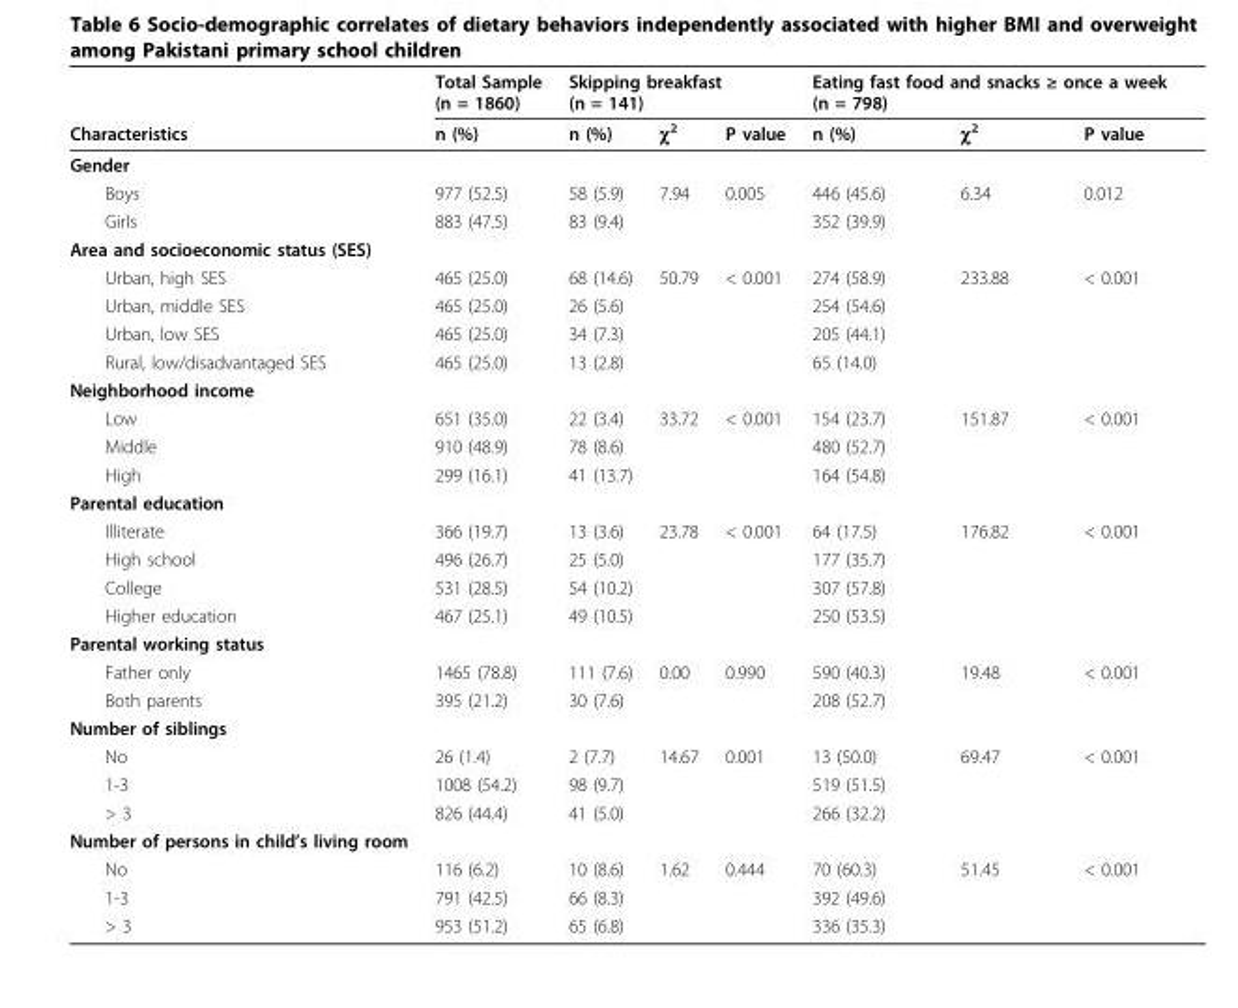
<table><thead><tr><td rowspan="2">Characteristics</td><td rowspan="2">Total Sample (n = 1860) n (%)</td><td colspan="3">Skipping breakfast (n = 141)</td><td colspan="3">Eating fast food and snacks ≥ once a week (n = 798)</td></tr><tr><td>n (%)</td><td>χ<sup>2</sup></td><td>P value</td><td>n (%)</td><td>χ<sup>2</sup></td><td>P value</td></tr></thead><tbody><tr><td colspan="8">Gender</td></tr><tr><td>Boys</td><td>977 (52.5)</td><td>58 (5.9)</td><td>7.94</td><td>0.005</td><td>446 (45.6)</td><td>6.34</td><td>0.012</td></tr><tr><td>Girls</td><td>883 (47.5)</td><td>83 (9.4)</td><td></td><td></td><td>352 (39.9)</td><td></td><td></td></tr><tr><td colspan="8">Area and socioeconomic status (SES)</td></tr><tr><td>Urban, high SES</td><td>465 (25.0)</td><td>68 (14.6)</td><td>50.79</td><td>&lt; 0.001</td><td>274 (58.9)</td><td>233.88</td><td>&lt; 0.001</td></tr><tr><td>Urban, middle SES</td><td>465 (25.0)</td><td>26 (5.6)</td><td></td><td></td><td>254 (54.6)</td><td></td><td></td></tr><tr><td>Urban, low SES</td><td>465 (25.0)</td><td>34 (7.3)</td><td></td><td></td><td>205 (44.1)</td><td></td><td></td></tr><tr><td>Rural, low/disadvantaged SES</td><td>465 (25.0)</td><td>13 (2.8)</td><td></td><td></td><td>65 (14.0)</td><td></td><td></td></tr><tr><td colspan="8">Neighborhood income</td></tr><tr><td>Low</td><td>651 (35.0)</td><td>22 (3.4)</td><td>33.72</td><td>&lt; 0.001</td><td>154 (23.7)</td><td>151.87</td><td>&lt; 0.001</td></tr><tr><td>Middle</td><td>910 (48.9)</td><td>78 (8.6)</td><td></td><td></td><td>480 (52.7)</td><td></td><td></td></tr><tr><td>High</td><td>299 (16.1)</td><td>41 (13.7)</td><td></td><td></td><td>164 (54.8)</td><td></td><td></td></tr><tr><td colspan="8">Parental education</td></tr><tr><td>Illiterate</td><td>366 (19.7)</td><td>13 (3.6)</td><td>23.78</td><td>&lt; 0.001</td><td>64 (17.5)</td><td>176.82</td><td>&lt; 0.001</td></tr><tr><td>High school</td><td>496 (26.7)</td><td>25 (5.0)</td><td></td><td></td><td>177 (35.7)</td><td></td><td></td></tr><tr><td>College</td><td>531 (28.5)</td><td>54 (10.2)</td><td></td><td></td><td>307 (57.8)</td><td></td><td></td></tr><tr><td>Higher education</td><td>467 (25.1)</td><td>49 (10.5)</td><td></td><td></td><td>250 (53.5)</td><td></td><td></td></tr><tr><td colspan="8">Parental working status</td></tr><tr><td>Father only</td><td>1465 (78.8)</td><td>111 (7.6)</td><td>0.00</td><td>0.990</td><td>590 (40.3)</td><td>19.48</td><td>&lt; 0.001</td></tr><tr><td>Both parents</td><td>395 (21.2)</td><td>30 (7.6)</td><td></td><td></td><td>208 (52.7)</td><td></td><td></td></tr><tr><td colspan="8">Number of siblings</td></tr><tr><td>No</td><td>26 (1.4)</td><td>2 (7.7)</td><td>14.67</td><td>0.001</td><td>13 (50.0)</td><td>69.47</td><td>&lt; 0.001</td></tr><tr><td>1-3</td><td>1008 (54.2)</td><td>98 (9.7)</td><td></td><td></td><td>519 (51.5)</td><td></td><td></td></tr><tr><td>&gt; 3</td><td>826 (44.4)</td><td>41 (5.0)</td><td></td><td></td><td>266 (32.2)</td><td></td><td></td></tr><tr><td colspan="8">Number of persons in child’s living room</td></tr><tr><td>No</td><td>116 (6.2)</td><td>10 (8.6)</td><td>1.62</td><td>0.444</td><td>70 (60.3)</td><td>51.45</td><td>&lt; 0.001</td></tr><tr><td>1-3</td><td>791 (42.5)</td><td>66 (8.3)</td><td></td><td></td><td>392 (49.6)</td><td></td><td></td></tr><tr><td>&gt; 3</td><td>953 (51.2)</td><td>65 (6.8)</td><td></td><td></td><td>336 (35.3)</td><td></td><td></td></tr></tbody></table>